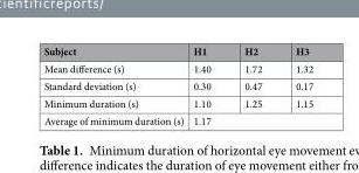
<table><thead><tr><td>Subject</td><td>H1</td><td>H2</td><td>H3</td></tr></thead><tbody><tr><td>Mean difference (s)</td><td>1.40</td><td>1.72</td><td>1.32</td></tr><tr><td>Standard deviation (s)</td><td>0.30</td><td>0.47</td><td>0.17</td></tr><tr><td>Minimum duration (s)</td><td>1.10</td><td>1.25</td><td>1.15</td></tr><tr><td>Average of minimum duration (s)</td><td colspan="3">1.17</td></tr></tbody></table>